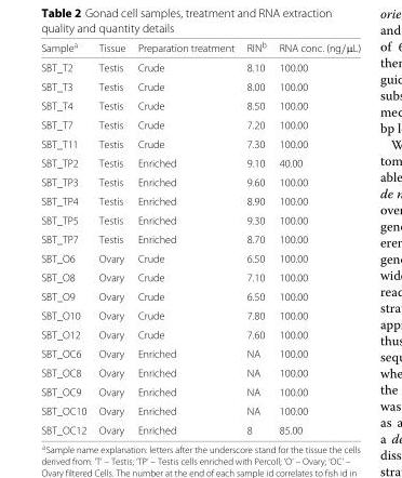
<table><thead><tr><td>Sample<sup>a</sup></td><td>Tissue</td><td>Preparation treatment</td><td>RIN<sup>b</sup></td><td>RNA conc. (ng/μL)</td></tr></thead><tbody><tr><td>SBT_T2</td><td>Testis</td><td>Crude</td><td>8.10</td><td>100.00</td></tr><tr><td>SBT_T3</td><td>Testis</td><td>Crude</td><td>8.00</td><td>100.00</td></tr><tr><td>SBT_T4</td><td>Testis</td><td>Crude</td><td>8.50</td><td>100.00</td></tr><tr><td>SBT_T7</td><td>Testis</td><td>Crude</td><td>7.20</td><td>100.00</td></tr><tr><td>SBT_T11</td><td>Testis</td><td>Crude</td><td>7.30</td><td>100.00</td></tr><tr><td>SBT_TP2</td><td>Testis</td><td>Enriched</td><td>9.10</td><td>40.00</td></tr><tr><td>SBT_TP3</td><td>Testis</td><td>Enriched</td><td>9.60</td><td>100.00</td></tr><tr><td>SBT_TP4</td><td>Testis</td><td>Enriched</td><td>8.90</td><td>100.00</td></tr><tr><td>SBT_TP5</td><td>Testis</td><td>Enriched</td><td>9.30</td><td>100.00</td></tr><tr><td>SBT_TP7</td><td>Testis</td><td>Enriched</td><td>8.70</td><td>100.00</td></tr><tr><td>SBT_O6</td><td>Ovary</td><td>Crude</td><td>6.50</td><td>100.00</td></tr><tr><td>SBT_O8</td><td>Ovary</td><td>Crude</td><td>7.10</td><td>100.00</td></tr><tr><td>SBT_O9</td><td>Ovary</td><td>Crude</td><td>6.50</td><td>100.00</td></tr><tr><td>SBT_O10</td><td>Ovary</td><td>Crude</td><td>7.80</td><td>100.00</td></tr><tr><td>SBT_O12</td><td>Ovary</td><td>Crude</td><td>7.60</td><td>100.00</td></tr><tr><td>SBT_OC6</td><td>Ovary</td><td>Enriched</td><td>NA</td><td>100.00</td></tr><tr><td>SBT_OC8</td><td>Ovary</td><td>Enriched</td><td>NA</td><td>100.00</td></tr><tr><td>SBT_OC9</td><td>Ovary</td><td>Enriched</td><td>NA</td><td>100.00</td></tr><tr><td>SBT_OC10</td><td>Ovary</td><td>Enriched</td><td>NA</td><td>100.00</td></tr><tr><td>SBT_OC12</td><td>Ovary</td><td>Enriched</td><td>8</td><td>85.00</td></tr></tbody></table>